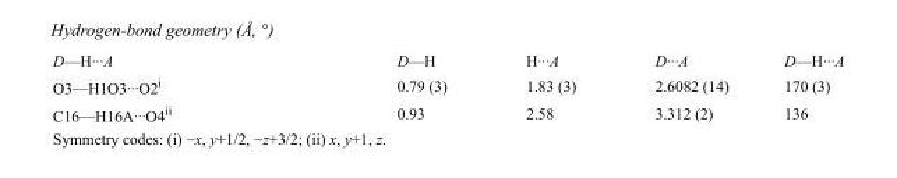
<table><tbody><tr><td>D—H···A</td><td>D—H</td><td>H···A</td><td>D···A</td><td>D—H···A</td></tr><tr><td>O3—H1O3···O2<sup>i</sup></td><td>0.79 (3)</td><td>1.83 (3)</td><td>2.6082 (14)</td><td>170 (3)</td></tr><tr><td>C16—H16A···O4<sup>ii</sup></td><td>0.93</td><td>2.58</td><td>3.312 (2)</td><td>136</td></tr></tbody></table>